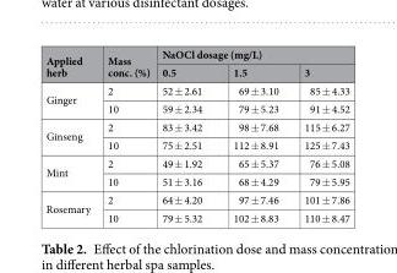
<table><thead><tr><td rowspan="2">Applied herb</td><td rowspan="2">Mass conc. (%)</td><td colspan="3">NaOCl dosage (mg/L)</td></tr><tr><td>0.5</td><td>1.5</td><td>3</td></tr></thead><tbody><tr><td rowspan="2">Ginger</td><td>2</td><td>52 ± 2.61</td><td>69 ± 3.10</td><td>85 ± 4.33</td></tr><tr><td>10</td><td>59 ± 2.34</td><td>79 ± 5.23</td><td>91 ± 4.52</td></tr><tr><td rowspan="2">Ginseng</td><td>2</td><td>83 ± 3.42</td><td>98 ± 7.68</td><td>115 ± 6.27</td></tr><tr><td>10</td><td>75 ± 2.51</td><td>112 ± 8.91</td><td>125 ± 7.43</td></tr><tr><td rowspan="2">Mint</td><td>2</td><td>49 ± 1.92</td><td>65 ± 5.37</td><td>76 ± 5.08</td></tr><tr><td>10</td><td>51 ± 3.16</td><td>68 ± 4.29</td><td>79 ± 5.95</td></tr><tr><td rowspan="2">Rosemary</td><td>2</td><td>64 ± 4.20</td><td>97 ± 7.46</td><td>101 ± 7.86</td></tr><tr><td>10</td><td>79 ± 5.32</td><td>102 ± 8.83</td><td>110 ± 8.47</td></tr></tbody></table>